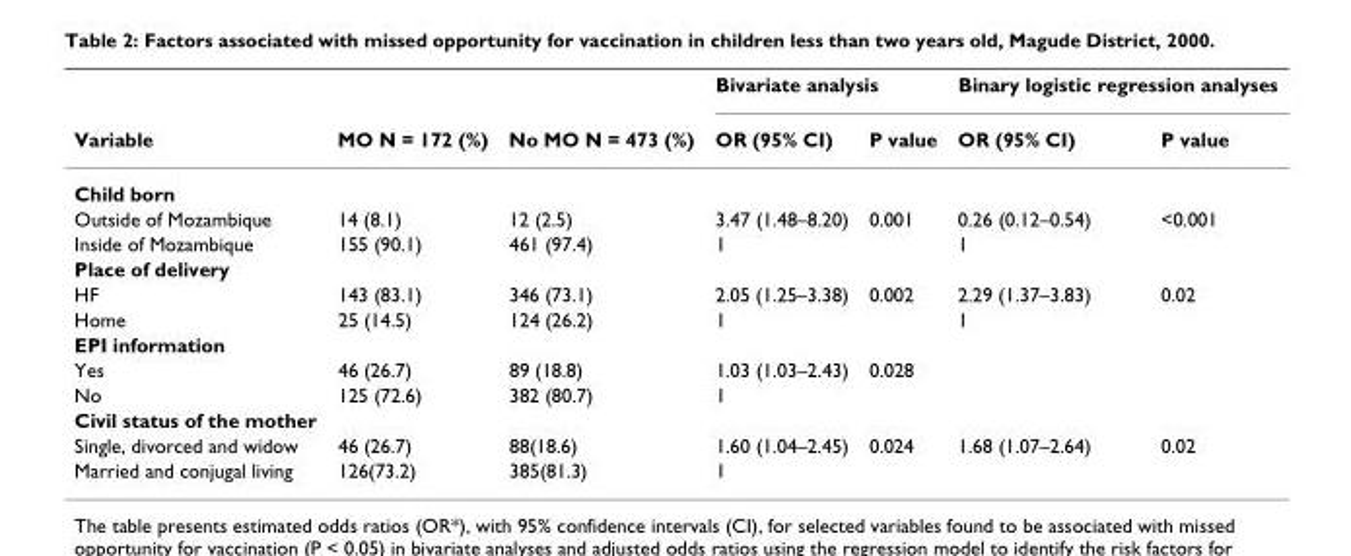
<table><thead><tr><td rowspan="2">Variable</td><td rowspan="2">MO N = 172 (%)</td><td rowspan="2">No MO N = 473 (%)</td><td colspan="2">Bivariate analysis</td><td colspan="2">Binary logistic regression analyses</td></tr><tr><td>OR (95% CI)</td><td>P value</td><td>OR (95% CI)</td><td>P value</td></tr></thead><tbody><tr><td colspan="7">Child born</td></tr><tr><td>Outside of Mozambique</td><td>14 (8.1)</td><td>12 (2.5)</td><td>3.47 (1.48–8.20)</td><td>0.001</td><td>0.26 (0.12–0.54)</td><td>&lt;0.001</td></tr><tr><td>Inside of Mozambique</td><td>155 (90.1)</td><td>461 (97.4)</td><td>1</td><td></td><td>1</td><td></td></tr><tr><td colspan="7">Place of delivery</td></tr><tr><td>HF</td><td>143 (83.1)</td><td>346 (73.1)</td><td>2.05 (1.25–3.38)</td><td>0.002</td><td>2.29 (1.37–3.83)</td><td>0.02</td></tr><tr><td>Home</td><td>25 (14.5)</td><td>124 (26.2)</td><td>1</td><td></td><td>1</td><td></td></tr><tr><td colspan="7">EPI information</td></tr><tr><td>Yes</td><td>46 (26.7)</td><td>89 (18.8)</td><td>1.03 (1.03–2.43)</td><td>0.028</td><td></td><td></td></tr><tr><td>No</td><td>125 (72.6)</td><td>382 (80.7)</td><td>1</td><td></td><td></td><td></td></tr><tr><td colspan="7">Civil status of the mother</td></tr><tr><td>Single, divorced and widow</td><td>46 (26.7)</td><td>88(18.6)</td><td>1.60 (1.04–2.45)</td><td>0.024</td><td>1.68 (1.07–2.64)</td><td>0.02</td></tr><tr><td>Married and conjugal living</td><td>126(73.2)</td><td>385(81.3)</td><td>1</td><td></td><td></td><td></td></tr></tbody></table>